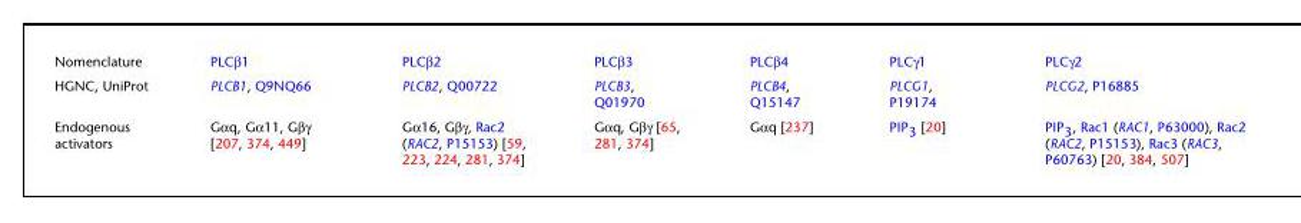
<table><tbody><tr><td>Nomenclature</td><td>PLCβ1</td><td>PLCβ2</td><td>PLCβ3</td><td>PLCβ4</td><td>PLCγ1</td><td>PLCγ2</td></tr><tr><td>HGNC, UniProt</td><td>PLCB1, Q9NQ66</td><td>PLCB2, Q00722</td><td>PLCB3, Q01970</td><td>PLCB4, Q15147</td><td>PLCG1, P19174</td><td>PLCG2, P16885</td></tr><tr><td>Endogenous activators</td><td>Gαq, Gα11, Gβγ [207, 374, 449]</td><td>Gα16, Gβγ, Rac2 (RAC2, P15153) [59, 223, 224, 281, 374]</td><td>Gαq, Gβγ [65, 281, 374]</td><td>Gαq [237]</td><td>PIP<sub>3</sub> [20]</td><td>PIP<sub>3</sub>, Rac1 (RAC1, P63000), Rac2 (RAC2, P15153), Rac3 (RAC3, P60763) [20, 384, 507]</td></tr></tbody></table>